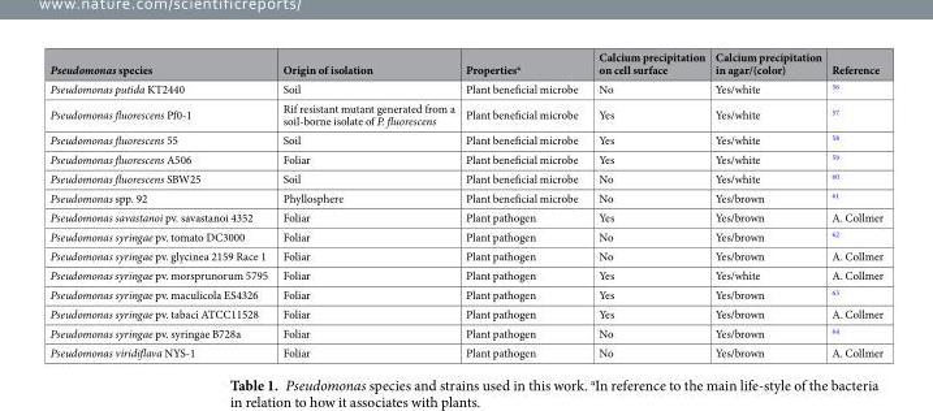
<table><thead><tr><td>Pseudomonas species</td><td>Origin of isolation</td><td>Properties<sup>a</sup></td><td>Calcium precipitation on cell surface</td><td>Calcium precipitation in agar/(color)</td><td>Reference</td></tr></thead><tbody><tr><td>Pseudomonas putida KT2440</td><td>Soil</td><td>Plant beneficial microbe</td><td>No</td><td>Yes/white</td><td><sup>56</sup></td></tr><tr><td>Pseudomonas fluorescens Pf0-1</td><td>Rif resistant mutant generated from a soil-borne isolate of P. fluorescens</td><td>Plant beneficial microbe</td><td>Yes</td><td>Yes/white</td><td><sup>57</sup></td></tr><tr><td>Pseudomonas fluorescens 55</td><td>Soil</td><td>Plant beneficial microbe</td><td>Yes</td><td>Yes/white</td><td><sup>58</sup></td></tr><tr><td>Pseudomonas fluorescens A506</td><td>Foliar</td><td>Plant beneficial microbe</td><td>Yes</td><td>Yes/white</td><td><sup>59</sup></td></tr><tr><td>Pseudomonas fluorescens SBW25</td><td>Soil</td><td>Plant beneficial microbe</td><td>No</td><td>Yes/white</td><td><sup>60</sup></td></tr><tr><td>Pseudomonas spp. 92</td><td>Phyllosphere</td><td>Plant beneficial microbe</td><td>No</td><td>Yes/brown</td><td><sup>61</sup></td></tr><tr><td>Pseudomonas savastanoi pv. savastanoi 4352</td><td>Foliar</td><td>Plant pathogen</td><td>Yes</td><td>Yes/brown</td><td>A. Collmer</td></tr><tr><td>Pseudomonas syringae pv. tomato DC3000</td><td>Foliar</td><td>Plant pathogen</td><td>No</td><td>Yes/brown</td><td><sup>62</sup></td></tr><tr><td>Pseudomonas syringae pv. glycinea 2159 Race 1</td><td>Foliar</td><td>Plant pathogen</td><td>No</td><td>Yes/brown</td><td>A. Collmer</td></tr><tr><td>Pseudomonas syringae pv. morsprunorum 5795</td><td>Foliar</td><td>Plant pathogen</td><td>Yes</td><td>Yes/white</td><td>A. Collmer</td></tr><tr><td>Pseudomonas syringae pv. maculicola ES4326</td><td>Foliar</td><td>Plant pathogen</td><td>Yes</td><td>Yes/brown</td><td><sup>63</sup></td></tr><tr><td>Pseudomonas syringae pv. tabaci ATCC11528</td><td>Foliar</td><td>Plant pathogen</td><td>Yes</td><td>Yes/brown</td><td>A. Collmer</td></tr><tr><td>Pseudomonas syringae pv. syringae B728a</td><td>Foliar</td><td>Plant pathogen</td><td>No</td><td>Yes/brown</td><td><sup>64</sup></td></tr><tr><td>Pseudomonas viridiflava NYS-1</td><td>Foliar</td><td>Plant pathogen</td><td>No</td><td>Yes/brown</td><td>A. Collmer</td></tr></tbody></table>